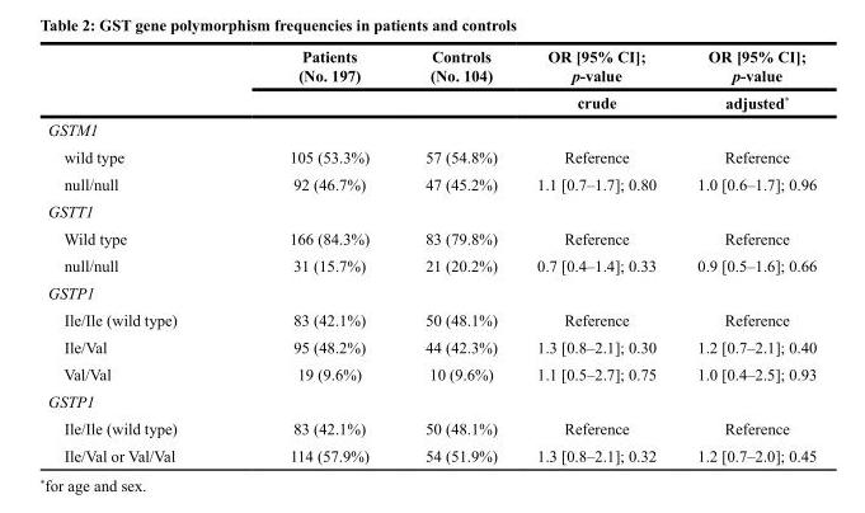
<table><thead><tr><td rowspan="2"></td><td rowspan="2">Patients (No. 197)</td><td rowspan="2">Controls (No. 104)</td><td rowspan="2">OR [95% CI]; p-value crude</td><td rowspan="2">OR [95% CI]; p-value adjusted*</td></tr><tr></tr></thead><tbody><tr><td colspan="5">GSTM1</td></tr><tr><td>wild type</td><td>105 (53.3%)</td><td>57 (54.8%)</td><td>Reference</td><td>Reference</td></tr><tr><td>null/null</td><td>92 (46.7%)</td><td>47 (45.2%)</td><td>1.1 [0.7–1.7]; 0.80</td><td>1.0 [0.6–1.7]; 0.96</td></tr><tr><td colspan="5">GSTT1</td></tr><tr><td>Wild type</td><td>166 (84.3%)</td><td>83 (79.8%)</td><td>Reference</td><td>Reference</td></tr><tr><td>null/null</td><td>31 (15.7%)</td><td>21 (20.2%)</td><td>0.7 [0.4–1.4]; 0.33</td><td>0.9 [0.5–1.6]; 0.66</td></tr><tr><td colspan="5">GSTP1</td></tr><tr><td>Ile/Ile (wild type)</td><td>83 (42.1%)</td><td>50 (48.1%)</td><td>Reference</td><td>Reference</td></tr><tr><td>Ile/Val</td><td>95 (48.2%)</td><td>44 (42.3%)</td><td>1.3 [0.8–2.1]; 0.30</td><td>1.2 [0.7–2.1]; 0.40</td></tr><tr><td>Val/Val</td><td>19 (9.6%)</td><td>10 (9.6%)</td><td>1.1 [0.5–2.7]; 0.75</td><td>1.0 [0.4–2.5]; 0.93</td></tr><tr><td colspan="5">GSTP1</td></tr><tr><td>Ile/Ile (wild type)</td><td>83 (42.1%)</td><td>50 (48.1%)</td><td>Reference</td><td>Reference</td></tr><tr><td>Ile/Val or Val/Val</td><td>114 (57.9%)</td><td>54 (51.9%)</td><td>1.3 [0.8–2.1]; 0.32</td><td>1.2 [0.7–2.0]; 0.45</td></tr></tbody></table>